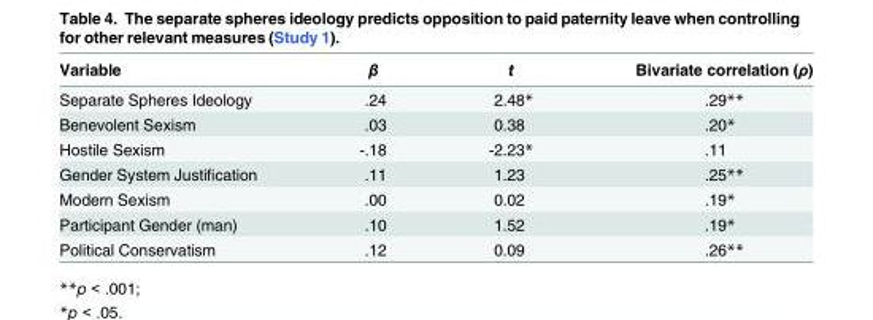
<table><thead><tr><td>Variable</td><td>β</td><td>t</td><td>Bivariate correlation (ρ)</td></tr></thead><tbody><tr><td>Separate Spheres Ideology</td><td>.24</td><td>2.48*</td><td>.29**</td></tr><tr><td>Benevolent Sexism</td><td>.03</td><td>0.38</td><td>.20*</td></tr><tr><td>Hostile Sexism</td><td>-.18</td><td>-2.23*</td><td>.11</td></tr><tr><td>Gender System Justification</td><td>.11</td><td>1.23</td><td>.25**</td></tr><tr><td>Modern Sexism</td><td>.00</td><td>0.02</td><td>.19*</td></tr><tr><td>Participant Gender (man)</td><td>.10</td><td>1.52</td><td>.19*</td></tr><tr><td>Political Conservatism</td><td>.12</td><td>0.09</td><td>.26**</td></tr></tbody></table>